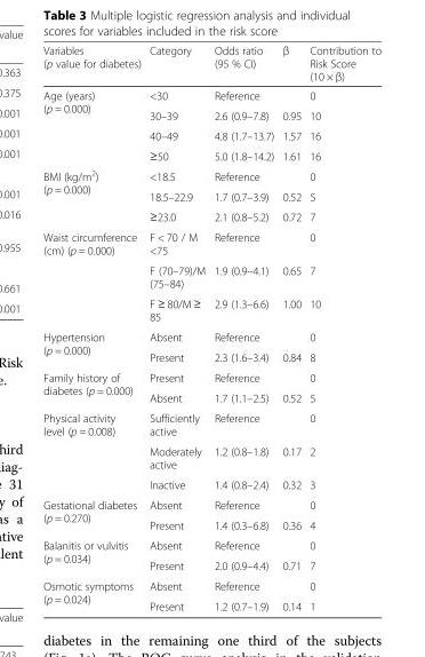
<table><thead><tr><td>Variables (p value for diabetes)</td><td>Category</td><td>Odds ratio (95 % CI)</td><td>β</td><td>Contribution to Risk Score (10 × β)</td></tr></thead><tbody><tr><td rowspan="4">Age (years) (p = 0.000)</td><td>&lt;30</td><td>Reference</td><td></td><td>0</td></tr><tr><td>30–39</td><td>2.6 (0.9–7.8)</td><td>0.95</td><td>10</td></tr><tr><td>40–49</td><td>4.8 (1.7–13.7)</td><td>1.57</td><td>16</td></tr><tr><td>≥50</td><td>5.0 (1.8–14.2)</td><td>1.61</td><td>16</td></tr><tr><td rowspan="3">BMI (kg/m<sup>2</sup>) (p = 0.000)</td><td>&lt;18.5</td><td>Reference</td><td></td><td>0</td></tr><tr><td>18.5–22.9</td><td>1.7 (0.7–3.9)</td><td>0.52</td><td>5</td></tr><tr><td>≥23.0</td><td>2.1 (0.8–5.2)</td><td>0.72</td><td>7</td></tr><tr><td rowspan="3">Waist circumference (cm) (p = 0.000)</td><td>F &lt; 70 / M &lt;75</td><td>Reference</td><td></td><td>0</td></tr><tr><td>F (70–79)/M (75–84)</td><td>1.9 (0.9–4.1)</td><td>0.65</td><td>7</td></tr><tr><td>F ≥ 80/M ≥ 85</td><td>2.9 (1.3–6.6)</td><td>1.00</td><td>10</td></tr><tr><td rowspan="2">Hypertension (p = 0.000)</td><td>Absent</td><td>Reference</td><td></td><td>0</td></tr><tr><td>Present</td><td>2.3 (1.6–3.4)</td><td>0.84</td><td>8</td></tr><tr><td rowspan="2">Family history of diabetes (p = 0.000)</td><td>Present</td><td>Reference</td><td></td><td>0</td></tr><tr><td>Absent</td><td>1.7 (1.1–2.5)</td><td>0.52</td><td>5</td></tr><tr><td rowspan="3">Physical activity level (p = 0.008)</td><td>Sufficiently active</td><td>Reference</td><td></td><td>0</td></tr><tr><td>Moderately active</td><td>1.2 (0.8–1.8)</td><td>0.17</td><td>2</td></tr><tr><td>Inactive</td><td>1.4 (0.8–2.4)</td><td>0.32</td><td>3</td></tr><tr><td rowspan="2">Gestational diabetes (p = 0.270)</td><td>Absent</td><td>Reference</td><td></td><td>0</td></tr><tr><td>Present</td><td>1.4 (0.3–6.8)</td><td>0.36</td><td>4</td></tr><tr><td rowspan="2">Balanitis or vulvitis (p = 0.034)</td><td>Absent</td><td>Reference</td><td></td><td>0</td></tr><tr><td>Present</td><td>2.0 (0.9–4.4)</td><td>0.71</td><td>7</td></tr><tr><td rowspan="2">Osmotic symptoms (p = 0.024)</td><td>Absent</td><td>Reference</td><td></td><td>0</td></tr><tr><td>Present</td><td>1.2 (0.7–1.9)</td><td>0.14</td><td>1</td></tr></tbody></table>